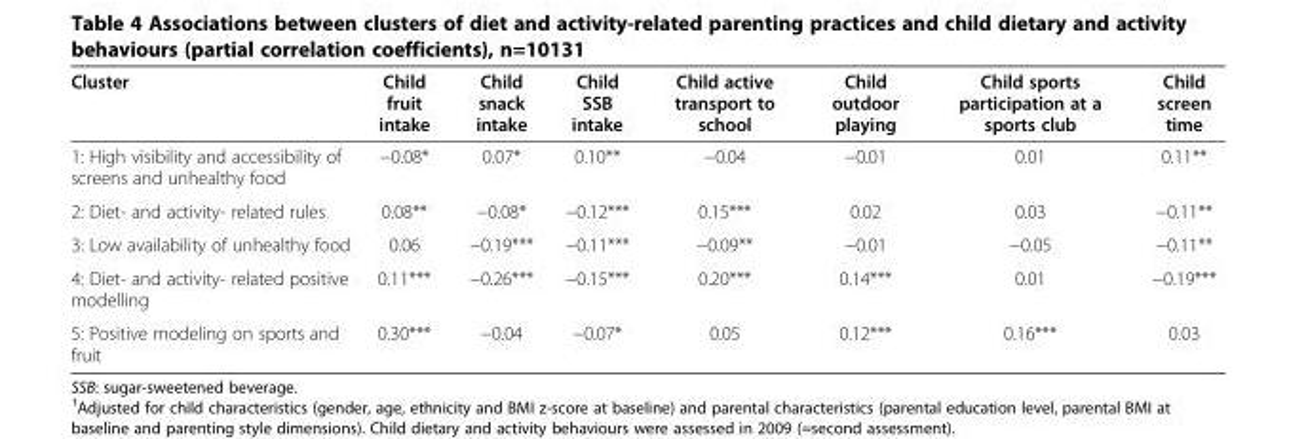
<table><thead><tr><td>Cluster</td><td>Child fruit intake</td><td>Child snack intake</td><td>Child SSB intake</td><td>Child active transport to school</td><td>Child outdoor playing</td><td>Child sports participation at a sports club</td><td>Child screen time</td></tr></thead><tbody><tr><td>1: High visibility and accessibility of screens and unhealthy food</td><td>−0.08*</td><td>0.07*</td><td>0.10**</td><td>−0.04</td><td>−0.01</td><td>0.01</td><td>0.11**</td></tr><tr><td>2: Diet- and activity- related rules</td><td>0.08**</td><td>−0.08*</td><td>−0.12***</td><td>0.15***</td><td>0.02</td><td>0.03</td><td>−0.11**</td></tr><tr><td>3: Low availability of unhealthy food</td><td>0.06</td><td>−0.19***</td><td>−0.11***</td><td>−0.09**</td><td>−0.01</td><td>−0.05</td><td>−0.11**</td></tr><tr><td>4: Diet- and activity- related positive modelling</td><td>0.11***</td><td>−0.26***</td><td>−0.15***</td><td>0.20***</td><td>0.14***</td><td>0.01</td><td>−0.19***</td></tr><tr><td>5: Positive modeling on sports and fruit</td><td>0.30***</td><td>−0.04</td><td>−0.07*</td><td>0.05</td><td>0.12***</td><td>0.16***</td><td>0.03</td></tr></tbody></table>